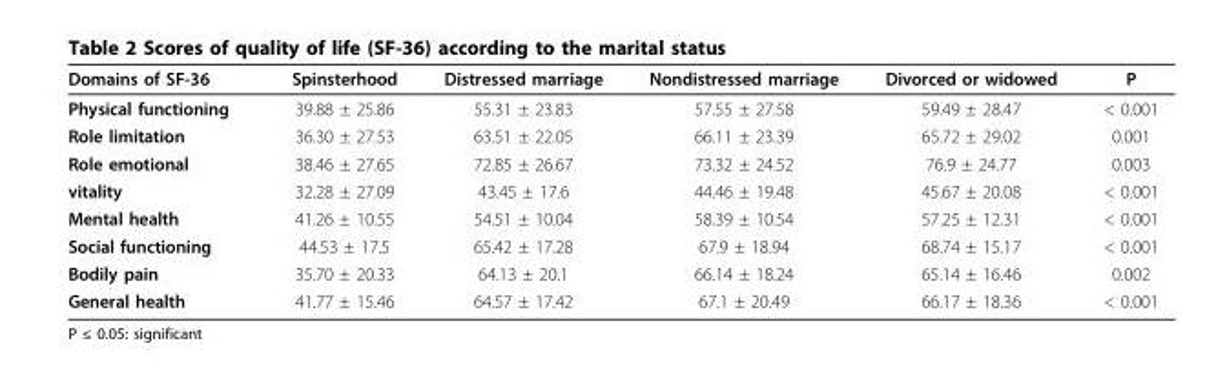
<table><thead><tr><td>Domains of SF-36</td><td>Spinsterhood</td><td>Distressed marriage</td><td>Nondistressed marriage</td><td>Divorced or widowed</td><td>P</td></tr></thead><tbody><tr><td>Physical functioning</td><td>39.88 ± 25.86</td><td>55.31 ± 23.83</td><td>57.55 ± 27.58</td><td>59.49 ± 28.47</td><td>&lt; 0.001</td></tr><tr><td>Role limitation</td><td>36.30 ± 27.53</td><td>63.51 ± 22.05</td><td>66.11 ± 23.39</td><td>65.72 ± 29.02</td><td>0.001</td></tr><tr><td>Role emotional</td><td>38.46 ± 27.65</td><td>72.85 ± 26.67</td><td>73.32 ± 24.52</td><td>76.9 ± 24.77</td><td>0.003</td></tr><tr><td>vitality</td><td>32.28 ± 27.09</td><td>43.45 ± 17.6</td><td>44.46 ± 19.48</td><td>45.67 ± 20.08</td><td>&lt; 0.001</td></tr><tr><td>Mental health</td><td>41.26 ± 10.55</td><td>54.51 ± 10.04</td><td>58.39 ± 10.54</td><td>57.25 ± 12.31</td><td>&lt; 0.001</td></tr><tr><td>Social functioning</td><td>44.53 ± 17.5</td><td>65.42 ± 17.28</td><td>67.9 ± 18.94</td><td>68.74 ± 15.17</td><td>&lt; 0.001</td></tr><tr><td>Bodily pain</td><td>35.70 ± 20.33</td><td>64.13 ± 20.1</td><td>66.14 ± 18.24</td><td>65.14 ± 16.46</td><td>0.002</td></tr><tr><td>General health</td><td>41.77 ± 15.46</td><td>64.57 ± 17.42</td><td>67.1 ± 20.49</td><td>66.17 ± 18.36</td><td>&lt; 0.001</td></tr></tbody></table>